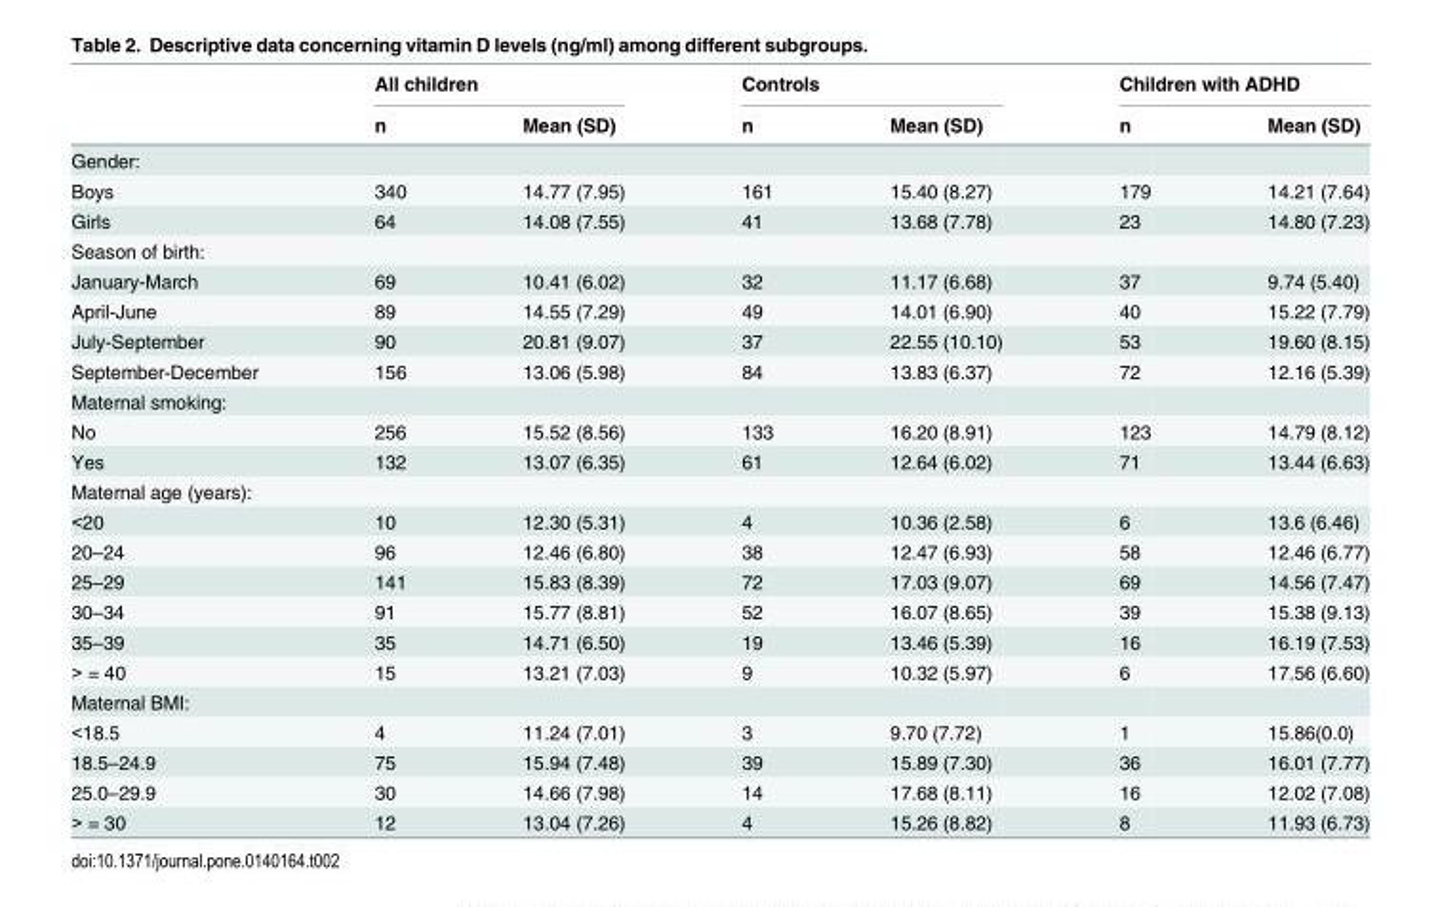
<table><thead><tr><td rowspan="2"></td><td colspan="2">All children</td><td colspan="2">Controls</td><td colspan="2">Children with ADHD</td></tr><tr><td>n</td><td>Mean (SD)</td><td>n</td><td>Mean (SD)</td><td>n</td><td>Mean (SD)</td></tr></thead><tbody><tr><td colspan="7">Gender:</td></tr><tr><td>Boys</td><td>340</td><td>14.77 (7.95)</td><td>161</td><td>15.40 (8.27)</td><td>179</td><td>14.21 (7.64)</td></tr><tr><td>Girls</td><td>64</td><td>14.08 (7.55)</td><td>41</td><td>13.68 (7.78)</td><td>23</td><td>14.80 (7.23)</td></tr><tr><td colspan="7">Season of birth:</td></tr><tr><td>January-March</td><td>69</td><td>10.41 (6.02)</td><td>32</td><td>11.17 (6.68)</td><td>37</td><td>9.74 (5.40)</td></tr><tr><td>April-June</td><td>89</td><td>14.55 (7.29)</td><td>49</td><td>14.01 (6.90)</td><td>40</td><td>15.22 (7.79)</td></tr><tr><td>July-September</td><td>90</td><td>20.81 (9.07)</td><td>37</td><td>22.55 (10.10)</td><td>53</td><td>19.60 (8.15)</td></tr><tr><td>September-December</td><td>156</td><td>13.06 (5.98)</td><td>84</td><td>13.83 (6.37)</td><td>72</td><td>12.16 (5.39)</td></tr><tr><td colspan="7">Maternal smoking:</td></tr><tr><td>No</td><td>256</td><td>15.52 (8.56)</td><td>133</td><td>16.20 (8.91)</td><td>123</td><td>14.79 (8.12)</td></tr><tr><td>Yes</td><td>132</td><td>13.07 (6.35)</td><td>61</td><td>12.64 (6.02)</td><td>71</td><td>13.44 (6.63)</td></tr><tr><td colspan="7">Maternal age (years):</td></tr><tr><td>&lt;20</td><td>10</td><td>12.30 (5.31)</td><td>4</td><td>10.36 (2.58)</td><td>6</td><td>13.6 (6.46)</td></tr><tr><td>20–24</td><td>96</td><td>12.46 (6.80)</td><td>38</td><td>12.47 (6.93)</td><td>58</td><td>12.46 (6.77)</td></tr><tr><td>25–29</td><td>141</td><td>15.83 (8.39)</td><td>72</td><td>17.03 (9.07)</td><td>69</td><td>14.56 (7.47)</td></tr><tr><td>30–34</td><td>91</td><td>15.77 (8.81)</td><td>52</td><td>16.07 (8.65)</td><td>39</td><td>15.38 (9.13)</td></tr><tr><td>35–39</td><td>35</td><td>14.71 (6.50)</td><td>19</td><td>13.46 (5.39)</td><td>16</td><td>16.19 (7.53)</td></tr><tr><td>&gt; = 40</td><td>15</td><td>13.21 (7.03)</td><td>9</td><td>10.32 (5.97)</td><td>6</td><td>17.56 (6.60)</td></tr><tr><td colspan="7">Maternal BMI:</td></tr><tr><td>&lt;18.5</td><td>4</td><td>11.24 (7.01)</td><td>3</td><td>9.70 (7.72)</td><td>1</td><td>15.86(0.0)</td></tr><tr><td>18.5–24.9</td><td>75</td><td>15.94 (7.48)</td><td>39</td><td>15.89 (7.30)</td><td>36</td><td>16.01 (7.77)</td></tr><tr><td>25.0–29.9</td><td>30</td><td>14.66 (7.98)</td><td>14</td><td>17.68 (8.11)</td><td>16</td><td>12.02 (7.08)</td></tr><tr><td>&gt; = 30</td><td>12</td><td>13.04 (7.26)</td><td>4</td><td>15.26 (8.82)</td><td>8</td><td>11.93 (6.73)</td></tr></tbody></table>